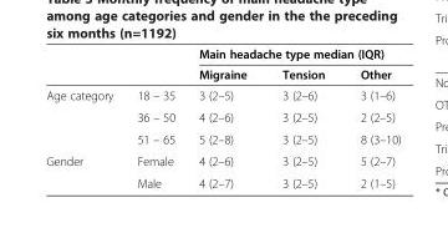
<table><thead><tr><td rowspan="2"></td><td rowspan="2"></td><td colspan="3">Main headache type median (IQR)</td></tr><tr><td>Migraine</td><td>Tension</td><td>Other</td></tr></thead><tbody><tr><td rowspan="3">Age category</td><td>18 – 35</td><td>3 (2–5)</td><td>3 (2–6)</td><td>3 (1–6)</td></tr><tr><td>36 – 50</td><td>4 (2–6)</td><td>3 (2–5)</td><td>2 (2–5)</td></tr><tr><td>51 – 65</td><td>5 (2–8)</td><td>3 (2–5)</td><td>8 (3–10)</td></tr><tr><td rowspan="2">Gender</td><td>Female</td><td>4 (2–6)</td><td>3 (2–5)</td><td>5 (2–7)</td></tr><tr><td>Male</td><td>4 (2–7)</td><td>3 (2–5)</td><td>2 (1–5)</td></tr></tbody></table>